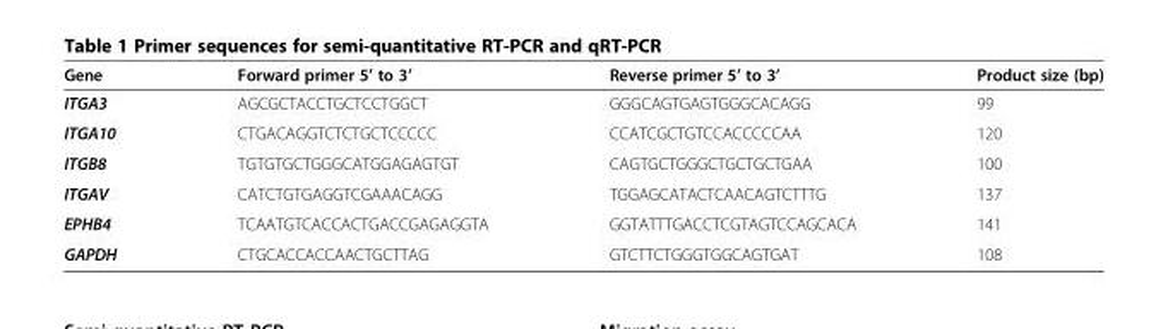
<table><thead><tr><td>Gene</td><td>Forward primer 5’ to 3’</td><td>Reverse primer 5’ to 3’</td><td>Product size (bp)</td></tr></thead><tbody><tr><td>ITGA3</td><td>AGCGCTACCTGCTCCTGGCT</td><td>GGGCAGTGAGTGGGCACAGG</td><td>99</td></tr><tr><td>ITGA10</td><td>CTGACAGGTCTCTGCTCCCCC</td><td>CCATCGCTGTCCACCCCCAA</td><td>120</td></tr><tr><td>ITGB8</td><td>TGTGTGCTGGGCATGGAGAGTGT</td><td>CAGTGCTGGGCTGCTGCTGAA</td><td>100</td></tr><tr><td>ITGAV</td><td>CATCTGTGAGGTCGAAACAGG</td><td>TGGAGCATACTCAACAGTCTTTG</td><td>137</td></tr><tr><td>EPHB4</td><td>TCAATGTCACCACTGACCGAGAGGTA</td><td>GGTATTTGACCTCGTAGTCCAGCACA</td><td>141</td></tr><tr><td>GAPDH</td><td>CTGCACCACCAACTGCTTAG</td><td>GTCTTCTGGGTGGCAGTGAT</td><td>108</td></tr></tbody></table>